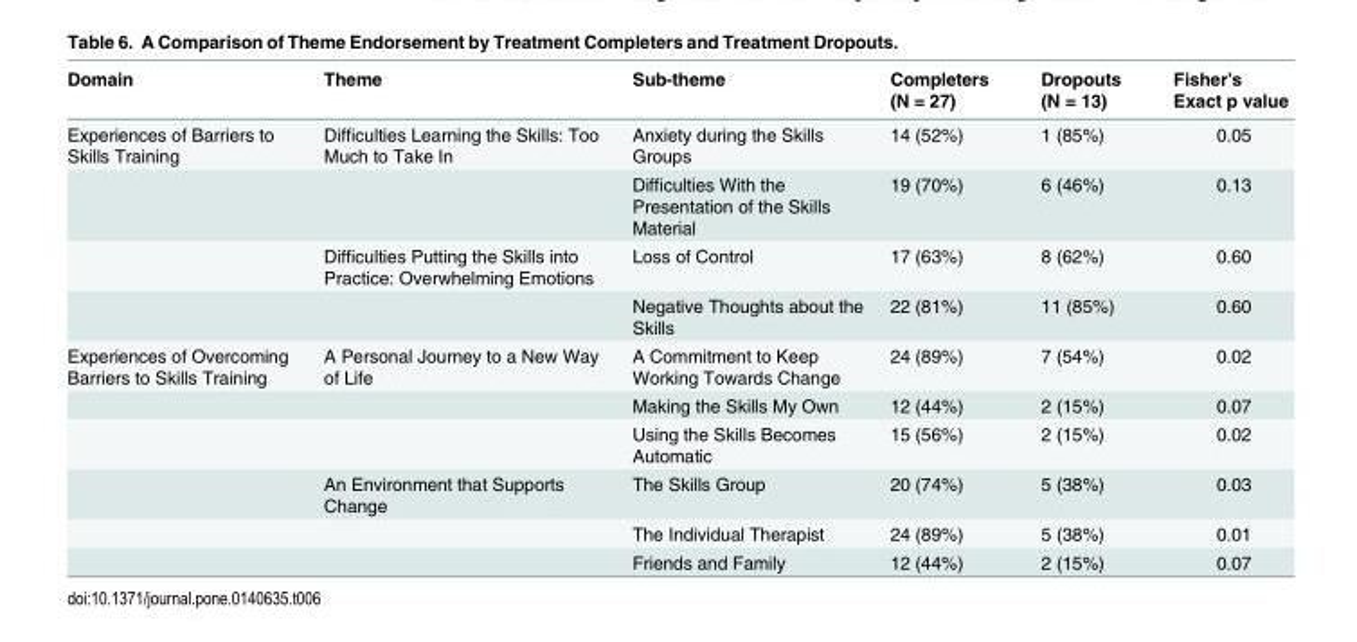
<table><thead><tr><td>Domain</td><td>Theme</td><td>Sub-theme</td><td>Completers (N = 27)</td><td>Dropouts (N = 13)</td><td>Fisher’s Exact p value</td></tr></thead><tbody><tr><td rowspan="4">Experiences of Barriers to Skills Training</td><td>Difficulties Learning the Skills: Too Much to Take In</td><td>Anxiety during the Skills Groups</td><td>14 (52%)</td><td>1 (85%)</td><td>0.05</td></tr><tr><td></td><td>Difficulties With the Presentation of the Skills Material</td><td>19 (70%)</td><td>6 (46%)</td><td>0.13</td></tr><tr><td>Difficulties Putting the Skills into Practice: Overwhelming Emotions</td><td>Loss of Control</td><td>17 (63%)</td><td>8 (62%)</td><td>0.60</td></tr><tr><td></td><td>Negative Thoughts about the Skills</td><td>22 (81%)</td><td>11 (85%)</td><td>0.60</td></tr><tr><td rowspan="6">Experiences of Overcoming Barriers to Skills Training</td><td>A Personal Journey to a New Way of Life</td><td>A Commitment to Keep Working Towards Change</td><td>24 (89%)</td><td>7 (54%)</td><td>0.02</td></tr><tr><td></td><td>Making the Skills My Own</td><td>12 (44%)</td><td>2 (15%)</td><td>0.07</td></tr><tr><td></td><td>Using the Skills Becomes Automatic</td><td>15 (56%)</td><td>2 (15%)</td><td>0.02</td></tr><tr><td>An Environment that Supports Change</td><td>The Skills Group</td><td>20 (74%)</td><td>5 (38%)</td><td>0.03</td></tr><tr><td></td><td>The Individual Therapist</td><td>24 (89%)</td><td>5 (38%)</td><td>0.01</td></tr><tr><td></td><td>Friends and Family</td><td>12 (44%)</td><td>2 (15%)</td><td>0.07</td></tr></tbody></table>